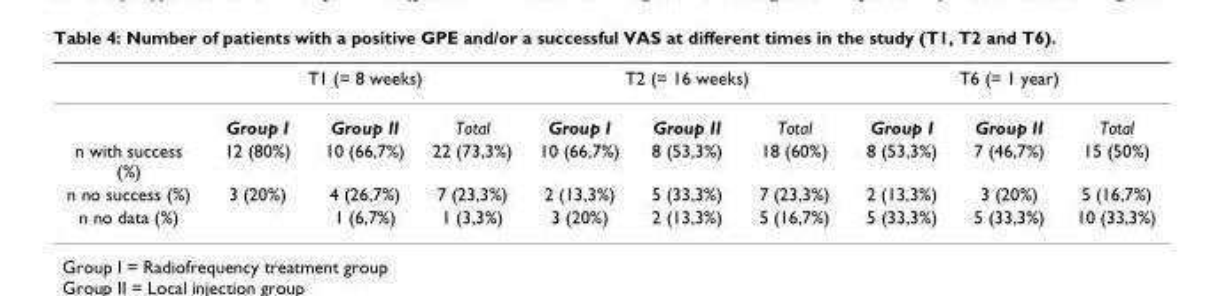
<table><thead><tr><td rowspan="2"></td><td colspan="3">T1 (= 8 weeks)</td><td colspan="3">T2 (= 16 weeks)</td><td colspan="3">T6 (= 1 year)</td></tr><tr><td>Group I</td><td>Group II</td><td>Total</td><td>Group I</td><td>Group II</td><td>Total</td><td>Group I</td><td>Group II</td><td>Total</td></tr></thead><tbody><tr><td>n with success (%)</td><td>12 (80%)</td><td>10 (66,7%)</td><td>22 (73,3%)</td><td>10 (66,7%)</td><td>8 (53,3%)</td><td>18 (60%)</td><td>8 (53,3%)</td><td>7 (46,7%)</td><td>15 (50%)</td></tr><tr><td>n no success (%)</td><td>3 (20%)</td><td>4 (26,7%)</td><td>7 (23,3%)</td><td>2 (13,3%)</td><td>5 (33,3%)</td><td>7 (23,3%)</td><td>2 (13,3%)</td><td>3 (20%)</td><td>5 (16,7%)</td></tr><tr><td>n no data (%)</td><td></td><td>1 (6,7%)</td><td>1 (3,3%)</td><td>3 (20%)</td><td>2 (13,3%)</td><td>5 (16,7%)</td><td>5 (33,3%)</td><td>5 (33,3%)</td><td>10 (33,3%)</td></tr></tbody></table>